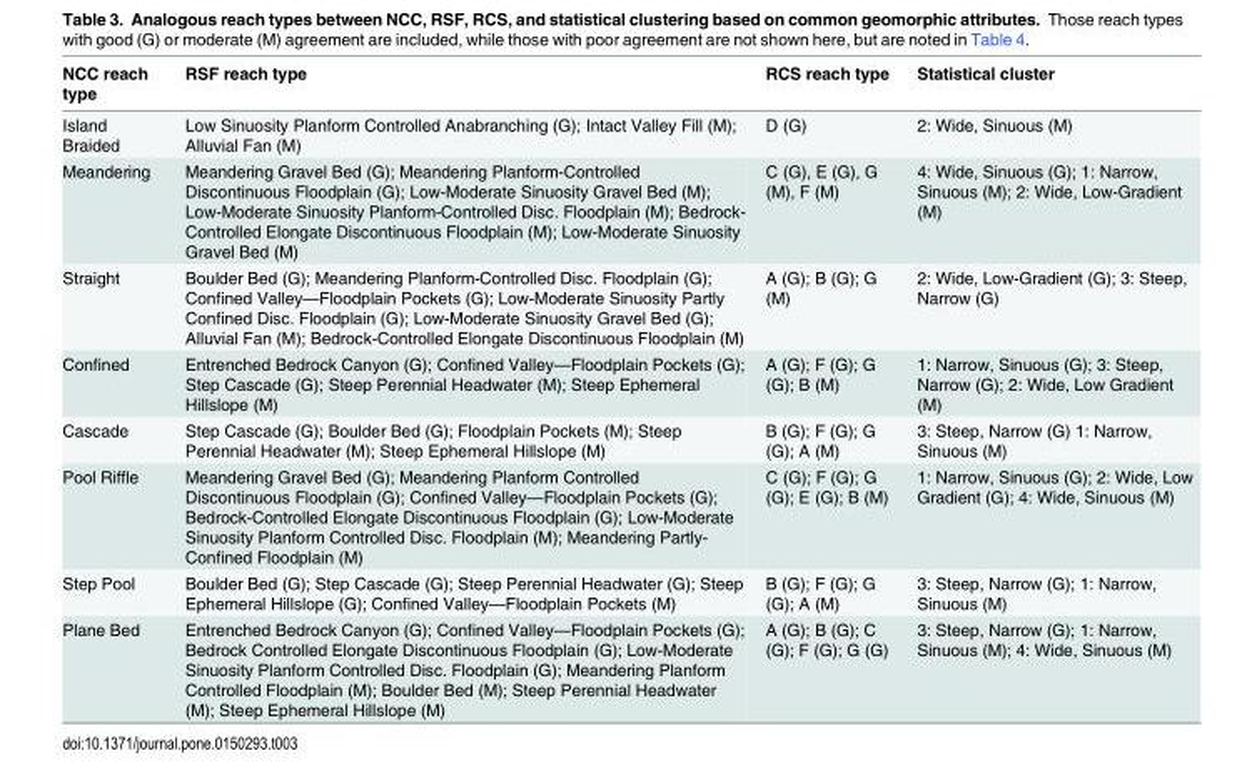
<table><thead><tr><td>NCC reach type</td><td>RSF reach type</td><td>RCS reach type</td><td>Statistical cluster</td></tr></thead><tbody><tr><td>Island Braided</td><td>Low Sinuosity Planform Controlled Anabranching (G); Intact Valley Fill (M); Alluvial Fan (M)</td><td>D (G)</td><td>2: Wide, Sinuous (M)</td></tr><tr><td>Meandering</td><td>Meandering Gravel Bed (G); Meandering Planform-Controlled Discontinuous Floodplain (G); Low-Moderate Sinuosity Gravel Bed (M); Low-Moderate Sinuosity Planform-Controlled Disc. Floodplain (M); Bedrock- Controlled Elongate Discontinuous Floodplain (M); Low-Moderate Sinuosity Gravel Bed (M)</td><td>C (G), E (G), G (M), F (M)</td><td>4: Wide, Sinuous (G); 1: Narrow, Sinuous (M); 2: Wide, Low-Gradient (M)</td></tr><tr><td>Straight</td><td>Boulder Bed (G); Meandering Planform-Controlled Disc. Floodplain (G); Confined Valley—Floodplain Pockets (G); Low-Moderate Sinuosity Partly Confined Disc. Floodplain (G); Low-Moderate Sinuosity Gravel Bed (G); Alluvial Fan (M); Bedrock-Controlled Elongate Discontinuous Floodplain (M)</td><td>A (G); B (G); G (M)</td><td>2: Wide, Low-Gradient (G); 3: Steep, Narrow (G)</td></tr><tr><td>Confined</td><td>Entrenched Bedrock Canyon (G); Confined Valley—Floodplain Pockets (G); Step Cascade (G); Steep Perennial Headwater (M); Steep Ephemeral Hillslope (M)</td><td>A (G); F (G); G (G); B (M)</td><td>1: Narrow, Sinuous (G); 3: Steep, Narrow (G); 2: Wide, Low Gradient (M)</td></tr><tr><td>Cascade</td><td>Step Cascade (G); Boulder Bed (G); Floodplain Pockets (M); Steep Perennial Headwater (M); Steep Ephemeral Hillslope (M)</td><td>B (G); F (G); G (G); A (M)</td><td>3: Steep, Narrow (G) 1: Narrow, Sinuous (M)</td></tr><tr><td>Pool Riffle</td><td>Meandering Gravel Bed (G); Meandering Planform Controlled Discontinuous Floodplain (G); Confined Valley—Floodplain Pockets (G); Bedrock-Controlled Elongate Discontinuous Floodplain (G); Low-Moderate Sinuosity Planform Controlled Disc. Floodplain (M); Meandering Partly- Confined Floodplain (M)</td><td>C (G); F (G); G (G); E (G); B (M)</td><td>1: Narrow, Sinuous (G); 2: Wide, Low Gradient (G); 4: Wide, Sinuous (M)</td></tr><tr><td>Step Pool</td><td>Boulder Bed (G); Step Cascade (G); Steep Perennial Headwater (G); Steep Ephemeral Hillslope (G); Confined Valley—Floodplain Pockets (M)</td><td>B (G); F (G); G (G); A (M)</td><td>3: Steep, Narrow (G); 1: Narrow, Sinuous (M)</td></tr><tr><td>Plane Bed</td><td>Entrenched Bedrock Canyon (G); Confined Valley—Floodplain Pockets (G); Bedrock Controlled Elongate Discontinuous Floodplain (G); Low-Moderate Sinuosity Planform Controlled Disc. Floodplain (G); Meandering Planform Controlled Floodplain (M); Boulder Bed (M); Steep Perennial Headwater (M); Steep Ephemeral Hillslope (M)</td><td>A (G); B (G); C (G); F (G); G (G)</td><td>3: Steep, Narrow (G); 1: Narrow, Sinuous (M); 4: Wide, Sinuous (M)</td></tr></tbody></table>